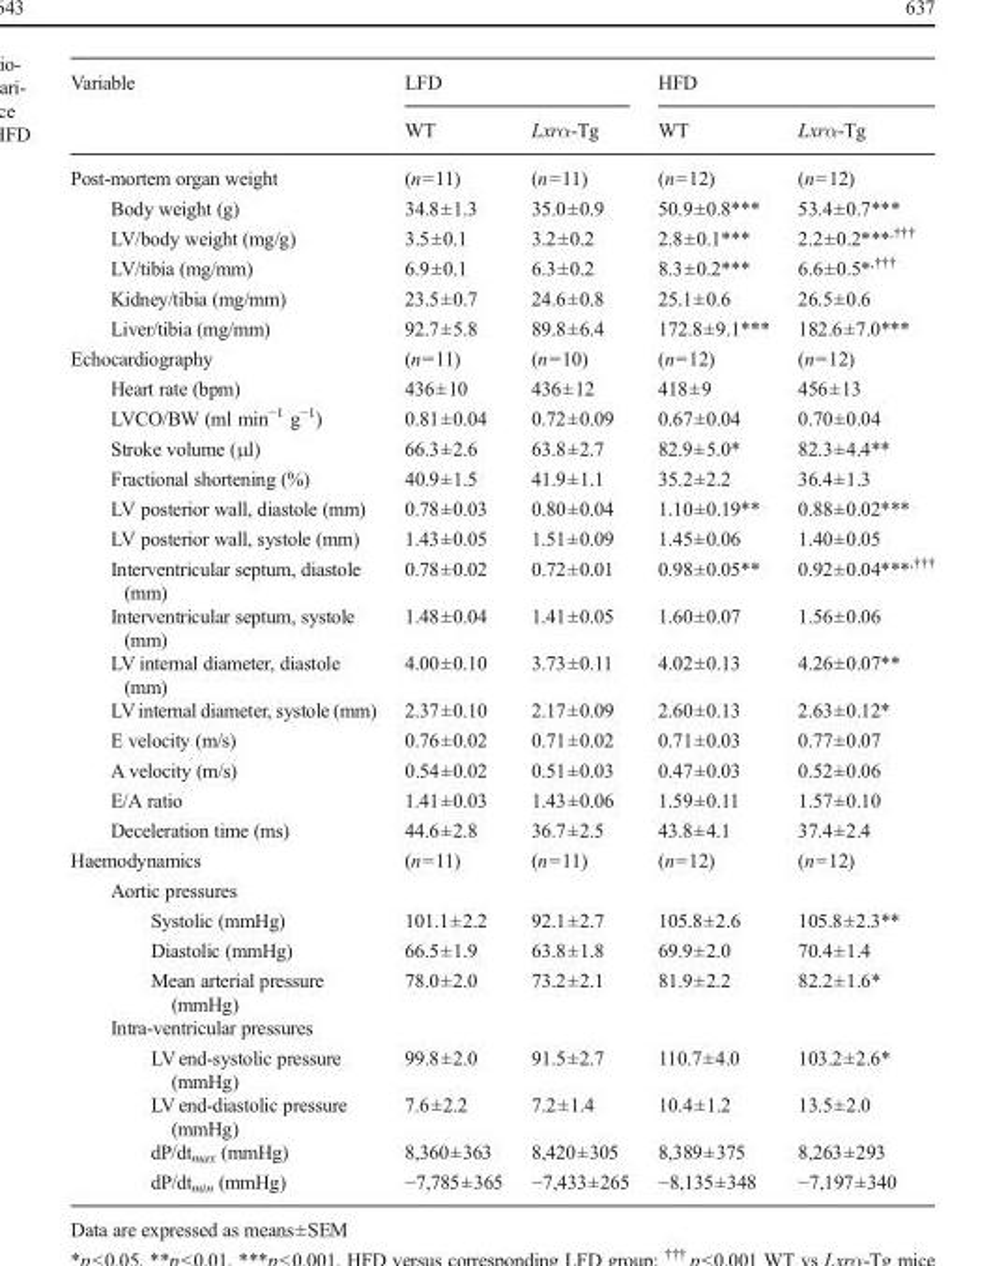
<table><thead><tr><td rowspan="2">Variable</td><td colspan="2">LFD</td><td colspan="2">HFD</td></tr><tr><td>WT</td><td>Lxrα-Tg</td><td>WT</td><td>Lxrα-Tg</td></tr></thead><tbody><tr><td>Post-mortem organ weight</td><td>(n=11)</td><td>(n=11)</td><td>(n=12)</td><td>(n=12)</td></tr><tr><td>Body weight (g)</td><td>34.8±1.3</td><td>35.0±0.9</td><td>50.9±0.8***</td><td>53.4±0.7***</td></tr><tr><td>LV/body weight (mg/g)</td><td>3.5±0.1</td><td>3.2±0.2</td><td>2.8±0.1***</td><td>2.2±0.2***<sup>,†††</sup></td></tr><tr><td>LV/tibia (mg/mm)</td><td>6.9±0.1</td><td>6.3±0.2</td><td>8.3±0.2***</td><td>6.6±0.5*<sup>,†††</sup></td></tr><tr><td>Kidney/tibia (mg/mm)</td><td>23.5±0.7</td><td>24.6±0.8</td><td>25.1±0.6</td><td>26.5±0.6</td></tr><tr><td>Liver/tibia (mg/mm)</td><td>92.7±5.8</td><td>89.8±6.4</td><td>172.8±9.1***</td><td>182.6±7.0***</td></tr><tr><td>Echocardiography</td><td>(n=11)</td><td>(n=10)</td><td>(n=12)</td><td>(n=12)</td></tr><tr><td>Heart rate (bpm)</td><td>436±10</td><td>436±12</td><td>418±9</td><td>456±13</td></tr><tr><td>LVCO/BW (ml min<sup>−1</sup> g<sup>−1</sup>)</td><td>0.81±0.04</td><td>0.72±0.09</td><td>0.67±0.04</td><td>0.70±0.04</td></tr><tr><td>Stroke volume (μl)</td><td>66.3±2.6</td><td>63.8±2.7</td><td>82.9±5.0*</td><td>82.3±4.4**</td></tr><tr><td>Fractional shortening (%)</td><td>40.9±1.5</td><td>41.9±1.1</td><td>35.2±2.2</td><td>36.4±1.3</td></tr><tr><td>LV posterior wall, diastole (mm)</td><td>0.78±0.03</td><td>0.80±0.04</td><td>1.10±0.19**</td><td>0.88±0.02***</td></tr><tr><td>LV posterior wall, systole (mm)</td><td>1.43±0.05</td><td>1.51±0.09</td><td>1.45±0.06</td><td>1.40±0.05</td></tr><tr><td>Interventricular septum, diastole (mm)</td><td>0.78±0.02</td><td>0.72±0.01</td><td>0.98±0.05**</td><td>0.92±0.04***<sup>,†††</sup></td></tr><tr><td>Interventricular septum, systole (mm)</td><td>1.48±0.04</td><td>1.41±0.05</td><td>1.60±0.07</td><td>1.56±0.06</td></tr><tr><td>LV internal diameter, diastole (mm)</td><td>4.00±0.10</td><td>3.73±0.11</td><td>4.02±0.13</td><td>4.26±0.07**</td></tr><tr><td>LVinternal diameter, systole (mm)</td><td>2.37±0.10</td><td>2.17±0.09</td><td>2.60±0.13</td><td>2.63±0.12*</td></tr><tr><td>E velocity (m/s)</td><td>0.76±0.02</td><td>0.71±0.02</td><td>0.71±0.03</td><td>0.77±0.07</td></tr><tr><td>A velocity (m/s)</td><td>0.54±0.02</td><td>0.51±0.03</td><td>0.47±0.03</td><td>0.52±0.06</td></tr><tr><td>E/A ratio</td><td>1.41±0.03</td><td>1.43±0.06</td><td>1.59±0.11</td><td>1.57±0.10</td></tr><tr><td>Deceleration time (ms)</td><td>44.6±2.8</td><td>36.7±2.5</td><td>43.8±4.1</td><td>37.4±2.4</td></tr><tr><td>Haemodynamics</td><td>(n=11)</td><td>(n=11)</td><td>(n=12)</td><td>(n=12)</td></tr><tr><td colspan="5">Aortic pressures</td></tr><tr><td>Systolic (mmHg)</td><td>101.1±2.2</td><td>92.1±2.7</td><td>105.8±2.6</td><td>105.8±2.3**</td></tr><tr><td>Diastolic (mmHg)</td><td>66.5±1.9</td><td>63.8±1.8</td><td>69.9±2.0</td><td>70.4±1.4</td></tr><tr><td>Mean arterial pressure (mmHg)</td><td>78.0±2.0</td><td>73.2±2.1</td><td>81.9±2.2</td><td>82.2±1.6*</td></tr><tr><td colspan="5">Intra-ventricular pressures</td></tr><tr><td>LV end-systolic pressure (mmHg)</td><td>99.8±2.0</td><td>91.5±2.7</td><td>110.7±4.0</td><td>103.2±2.6*</td></tr><tr><td>LV end-diastolic pressure (mmHg)</td><td>7.6±2.2</td><td>7.2±1.4</td><td>10.4±1.2</td><td>13.5±2.0</td></tr><tr><td>dP/dt<sub>max</sub> (mmHg)</td><td>8,360±363</td><td>8,420±305</td><td>8,389±375</td><td>8,263±293</td></tr><tr><td>dP/dt<sub>min</sub> (mmHg)</td><td>−7,785±365</td><td>−7,433±265</td><td>−8,135±348</td><td>−7,197±340</td></tr></tbody></table>